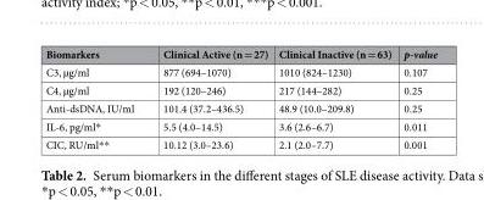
<table><thead><tr><td>Biomarkers</td><td>Clinical Active (n = 27)</td><td>Clinical Inactive (n = 63)</td><td>p-value</td></tr></thead><tbody><tr><td>C3, µg/ml</td><td>877 (694–1070)</td><td>1010 (824–1230)</td><td>0.107</td></tr><tr><td>C4, µg/ml</td><td>192 (120–246)</td><td>217 (144–282)</td><td>0.25</td></tr><tr><td>Anti-dsDNA, IU/ml</td><td>101.4 (37.2–436.5)</td><td>48.9 (10.0–209.8)</td><td>0.25</td></tr><tr><td>IL-6, pg/ml*</td><td>5.5 (4.0–14.5)</td><td>3.6 (2.6–6.7)</td><td>0.011</td></tr><tr><td>CIC, RU/ml**</td><td>10.12 (3.0–23.6)</td><td>2.1 (2.0–7.7)</td><td>0.001</td></tr></tbody></table>